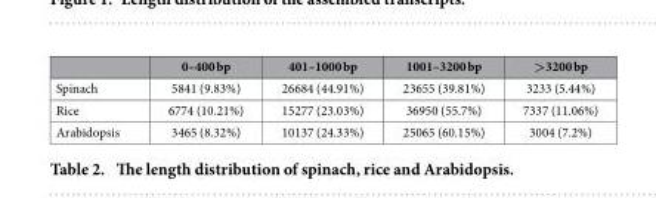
<table><thead><tr><td></td><td>0–400 bp</td><td>401–1000 bp</td><td>1001–3200 bp</td><td>&gt;3200 bp</td></tr></thead><tbody><tr><td>Spinach</td><td>5841 (9.83%)</td><td>26684 (44.91%)</td><td>23655 (39.81%)</td><td>3233 (5.44%)</td></tr><tr><td>Rice</td><td>6774 (10.21%)</td><td>15277 (23.03%)</td><td>36950 (55.7%)</td><td>7337 (11.06%)</td></tr><tr><td>Arabidopsis</td><td>3465 (8.32%)</td><td>10137 (24.33%)</td><td>25065 (60.15%)</td><td>3004 (7.2%)</td></tr></tbody></table>